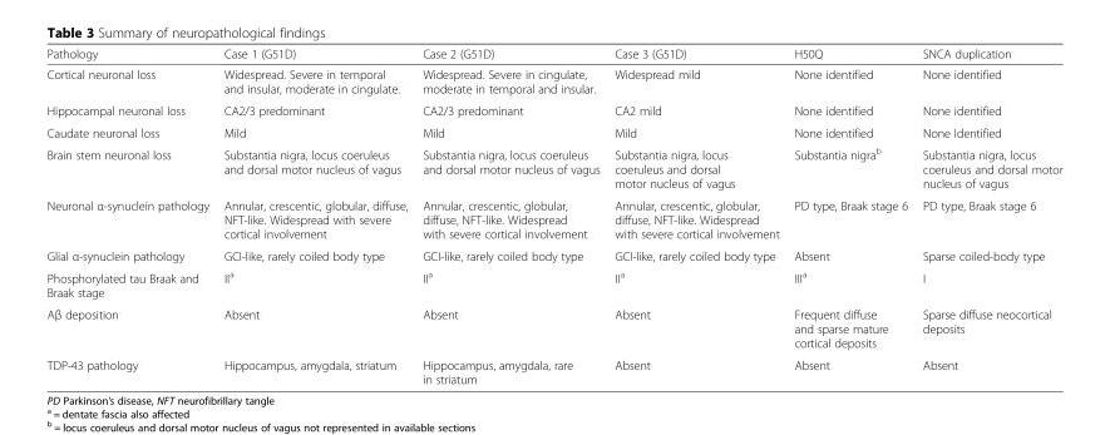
<table><thead><tr><td>Pathology</td><td>Case 1 (G51D)</td><td>Case 2 (G51D)</td><td>Case 3 (G51D)</td><td>H50Q</td><td>SNCA duplication</td></tr></thead><tbody><tr><td>Cortical neuronal loss</td><td>Widespread. Severe in temporal and insular, moderate in cingulate.</td><td>Widespread. Severe in cingulate, moderate in temporal and insular.</td><td>Widespread mild</td><td>None identified</td><td>None identified</td></tr><tr><td>Hippocampal neuronal loss</td><td>CA2/3 predominant</td><td>CA2/3 predominant</td><td>CA2 mild</td><td>None identified</td><td>None identified</td></tr><tr><td>Caudate neuronal loss</td><td>Mild</td><td>Mild</td><td>Mild</td><td>None identified</td><td>None Identified</td></tr><tr><td>Brain stem neuronal loss</td><td>Substantia nigra, locus coeruleus and dorsal motor nucleus of vagus</td><td>Substantia nigra, locus coeruleus and dorsal motor nucleus of vagus</td><td>Substantia nigra, locus coeruleus and dorsal motor nucleus of vagus</td><td>Substantia nigra<sup>b</sup></td><td>Substantia nigra, locus coeruleus and dorsal motor nucleus of vagus</td></tr><tr><td>Neuronal α-synuclein pathology</td><td>Annular, crescentic, globular, diffuse, NFT-like. Widespread with severe cortical involvement</td><td>Annular, crescentic, globular, diffuse, NFT-like. Widespread with severe cortical involvement</td><td>Annular, crescentic, globular, diffuse, NFT-like. Widespread with severe cortical involvement</td><td>PD type, Braak stage 6</td><td>PD type, Braak stage 6</td></tr><tr><td>Glial α-synuclein pathology</td><td>GCI-like, rarely coiled body type</td><td>GCI-like, rarely coiled body type</td><td>GCI-like, rarely coiled body type</td><td>Absent</td><td>Sparse coiled-body type</td></tr><tr><td>Phosphorylated tau Braak and Braak stage</td><td>II<sup>a</sup></td><td>II<sup>a</sup></td><td>II<sup>a</sup></td><td>III<sup>a</sup></td><td>I</td></tr><tr><td>Aβ deposition</td><td>Absent</td><td>Absent</td><td>Absent</td><td>Frequent diffuse and sparse mature cortical deposits</td><td>Sparse diffuse neocortical deposits</td></tr><tr><td>TDP-43 pathology</td><td>Hippocampus, amygdala, striatum</td><td>Hippocampus, amygdala, rare in striatum</td><td>Absent</td><td>Absent</td><td>Absent</td></tr></tbody></table>